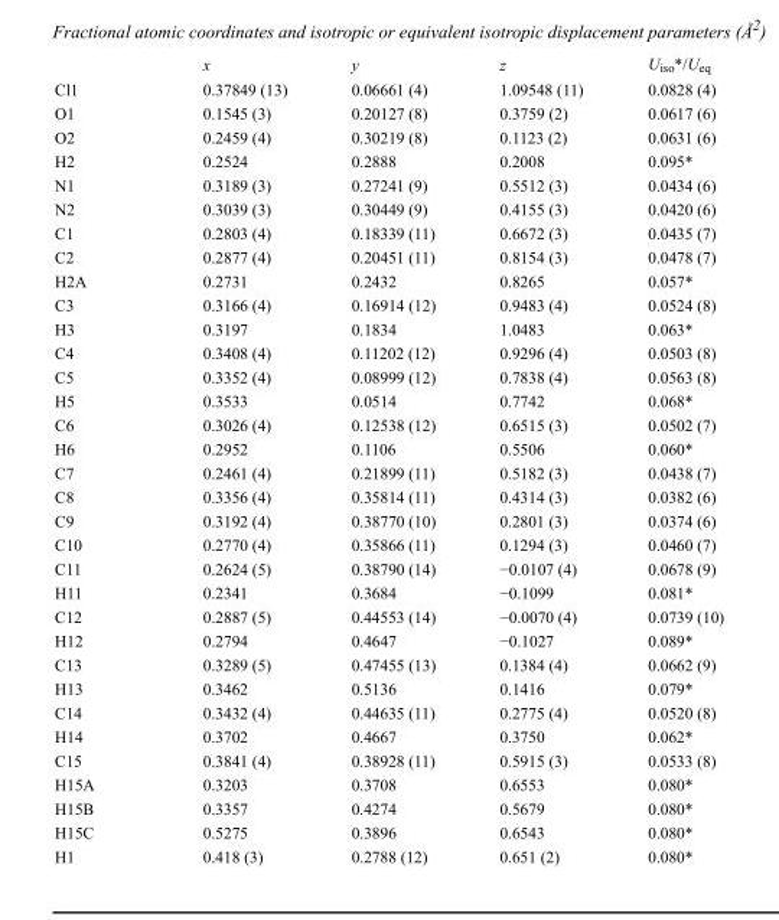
<table><thead><tr><td></td><td>x</td><td>y</td><td>z</td><td>U<sub>iso</sub>*/U<sub>eq</sub></td></tr></thead><tbody><tr><td>Cl1</td><td>0.37849 (13)</td><td>0.06661 (4)</td><td>1.09548 (11)</td><td>0.0828 (4)</td></tr><tr><td>O1</td><td>0.1545 (3)</td><td>0.20127 (8)</td><td>0.3759 (2)</td><td>0.0617 (6)</td></tr><tr><td>O2</td><td>0.2459 (4)</td><td>0.30219 (8)</td><td>0.1123 (2)</td><td>0.0631 (6)</td></tr><tr><td>H2</td><td>0.2524</td><td>0.2888</td><td>0.2008</td><td>0.095*</td></tr><tr><td>N1</td><td>0.3189 (3)</td><td>0.27241 (9)</td><td>0.5512 (3)</td><td>0.0434 (6)</td></tr><tr><td>N2</td><td>0.3039 (3)</td><td>0.30449 (9)</td><td>0.4155 (3)</td><td>0.0420 (6)</td></tr><tr><td>C1</td><td>0.2803 (4)</td><td>0.18339 (11)</td><td>0.6672 (3)</td><td>0.0435 (7)</td></tr><tr><td>C2</td><td>0.2877 (4)</td><td>0.20451 (11)</td><td>0.8154 (3)</td><td>0.0478 (7)</td></tr><tr><td>H2A</td><td>0.2731</td><td>0.2432</td><td>0.8265</td><td>0.057*</td></tr><tr><td>C3</td><td>0.3166 (4)</td><td>0.16914 (12)</td><td>0.9483 (4)</td><td>0.0524 (8)</td></tr><tr><td>H3</td><td>0.3197</td><td>0.1834</td><td>1.0483</td><td>0.063*</td></tr><tr><td>C4</td><td>0.3408 (4)</td><td>0.11202 (12)</td><td>0.9296 (4)</td><td>0.0503 (8)</td></tr><tr><td>C5</td><td>0.3352 (4)</td><td>0.08999 (12)</td><td>0.7838 (4)</td><td>0.0563 (8)</td></tr><tr><td>H5</td><td>0.3533</td><td>0.0514</td><td>0.7742</td><td>0.068*</td></tr><tr><td>C6</td><td>0.3026 (4)</td><td>0.12538 (12)</td><td>0.6515 (3)</td><td>0.0502 (7)</td></tr><tr><td>H6</td><td>0.2952</td><td>0.1106</td><td>0.5506</td><td>0.060*</td></tr><tr><td>C7</td><td>0.2461 (4)</td><td>0.21899 (11)</td><td>0.5182 (3)</td><td>0.0438 (7)</td></tr><tr><td>C8</td><td>0.3356 (4)</td><td>0.35814 (11)</td><td>0.4314 (3)</td><td>0.0382 (6)</td></tr><tr><td>C9</td><td>0.3192 (4)</td><td>0.38770 (10)</td><td>0.2801 (3)</td><td>0.0374 (6)</td></tr><tr><td>C10</td><td>0.2770 (4)</td><td>0.35866 (11)</td><td>0.1294 (3)</td><td>0.0460 (7)</td></tr><tr><td>C11</td><td>0.2624 (5)</td><td>0.38790 (14)</td><td>−0.0107 (4)</td><td>0.0678 (9)</td></tr><tr><td>H11</td><td>0.2341</td><td>0.3684</td><td>−0.1099</td><td>0.081*</td></tr><tr><td>C12</td><td>0.2887 (5)</td><td>0.44553 (14)</td><td>−0.0070 (4)</td><td>0.0739 (10)</td></tr><tr><td>H12</td><td>0.2794</td><td>0.4647</td><td>−0.1027</td><td>0.089*</td></tr><tr><td>C13</td><td>0.3289 (5)</td><td>0.47455 (13)</td><td>0.1384 (4)</td><td>0.0662 (9)</td></tr><tr><td>H13</td><td>0.3462</td><td>0.5136</td><td>0.1416</td><td>0.079*</td></tr><tr><td>C14</td><td>0.3432 (4)</td><td>0.44635 (11)</td><td>0.2775 (4)</td><td>0.0520 (8)</td></tr><tr><td>H14</td><td>0.3702</td><td>0.4667</td><td>0.3750</td><td>0.062*</td></tr><tr><td>C15</td><td>0.3841 (4)</td><td>0.38928 (11)</td><td>0.5915 (3)</td><td>0.0533 (8)</td></tr><tr><td>H15A</td><td>0.3203</td><td>0.3708</td><td>0.6553</td><td>0.080*</td></tr><tr><td>H15B</td><td>0.3357</td><td>0.4274</td><td>0.5679</td><td>0.080*</td></tr><tr><td>H15C</td><td>0.5275</td><td>0.3896</td><td>0.6543</td><td>0.080*</td></tr><tr><td>H1</td><td>0.418 (3)</td><td>0.2788 (12)</td><td>0.651 (2)</td><td>0.080*</td></tr></tbody></table>